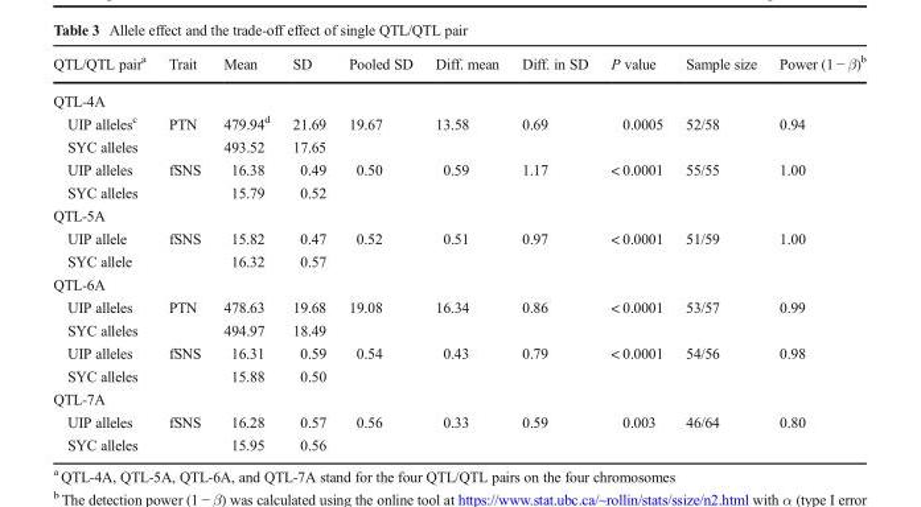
<table><thead><tr><td>QTL/QTL pair<sup>a</sup></td><td>Trait</td><td>Mean</td><td>SD</td><td>Pooled SD</td><td>Diff. mean</td><td>Diff. in SD</td><td>P value</td><td>Sample size</td><td>Power (1 − β)<sup>b</sup></td></tr></thead><tbody><tr><td colspan="10">QTL-4A</td></tr><tr><td>UIP alleles<sup>c</sup></td><td rowspan="2">PTN</td><td>479.94<sup>d</sup></td><td>21.69</td><td>19.67</td><td>13.58</td><td>0.69</td><td>0.0005</td><td>52/58</td><td>0.94</td></tr><tr><td>SYC alleles</td><td>493.52</td><td>17.65</td><td></td><td></td><td></td><td></td><td></td><td></td></tr><tr><td>UIP alleles</td><td rowspan="2">fSNS</td><td>16.38</td><td>0.49</td><td>0.50</td><td>0.59</td><td>1.17</td><td>&lt; 0.0001</td><td>55/55</td><td>1.00</td></tr><tr><td>SYC alleles</td><td>15.79</td><td>0.52</td><td></td><td></td><td></td><td></td><td></td><td></td></tr><tr><td colspan="10">QTL-5A</td></tr><tr><td>UIP allele</td><td rowspan="2">fSNS</td><td>15.82</td><td>0.47</td><td>0.52</td><td>0.51</td><td>0.97</td><td>&lt; 0.0001</td><td>51/59</td><td>1.00</td></tr><tr><td>SYC allele</td><td>16.32</td><td>0.57</td><td></td><td></td><td></td><td></td><td></td><td></td></tr><tr><td colspan="10">QTL-6A</td></tr><tr><td>UIP alleles</td><td rowspan="2">PTN</td><td>478.63</td><td>19.68</td><td>19.08</td><td>16.34</td><td>0.86</td><td>&lt; 0.0001</td><td>53/57</td><td>0.99</td></tr><tr><td>SYC alleles</td><td>494.97</td><td>18.49</td><td></td><td></td><td></td><td></td><td></td><td></td></tr><tr><td>UIP alleles</td><td rowspan="2">fSNS</td><td>16.31</td><td>0.59</td><td>0.54</td><td>0.43</td><td>0.79</td><td>&lt; 0.0001</td><td>54/56</td><td>0.98</td></tr><tr><td>SYC alleles</td><td>15.88</td><td>0.50</td><td></td><td></td><td></td><td></td><td></td><td></td></tr><tr><td colspan="10">QTL-7A</td></tr><tr><td>UIP alleles</td><td rowspan="2">fSNS</td><td>16.28</td><td>0.57</td><td>0.56</td><td>0.33</td><td>0.59</td><td>0.003</td><td>46/64</td><td>0.80</td></tr><tr><td>SYC alleles</td><td>15.95</td><td>0.56</td><td></td><td></td><td></td><td></td><td></td><td></td></tr></tbody></table>